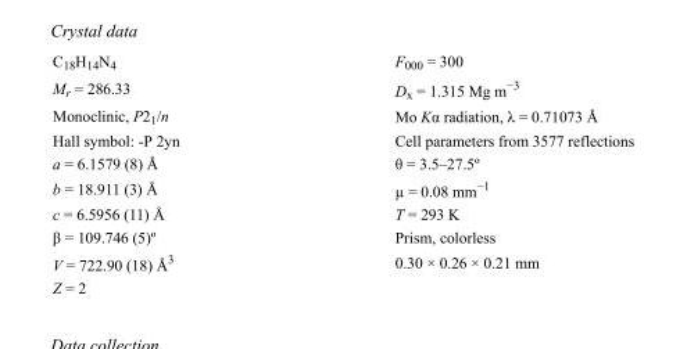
<table><tbody><tr><td>C<sub>18</sub>H<sub>14</sub>N<sub>4</sub></td><td>F000 = 300</td></tr><tr><td>M<sub>r</sub> = 286.33</td><td>D<sub>x</sub> = 1.315 Mg m<sup>−3</sup></td></tr><tr><td>Monoclinic, P2<sub>1</sub>/n</td><td>Mo Kα radiation, λ = 0.71073 Å</td></tr><tr><td>Hall symbol: -P 2yn</td><td>Cell parameters from 3577 reflections</td></tr><tr><td>a = 6.1579 (8) Å</td><td>θ = 3.5–27.5º</td></tr><tr><td>b = 18.911 (3) Å</td><td>µ = 0.08 mm<sup>−1</sup></td></tr><tr><td>c = 6.5956 (11) Å</td><td>T = 293 K</td></tr><tr><td>β = 109.746 (5)º</td><td>Prism, colorless</td></tr><tr><td>V = 722.90 (18) Å<sup>3</sup></td><td>0.30 × 0.26 × 0.21 mm</td></tr><tr><td>Z = 2</td><td></td></tr></tbody></table>